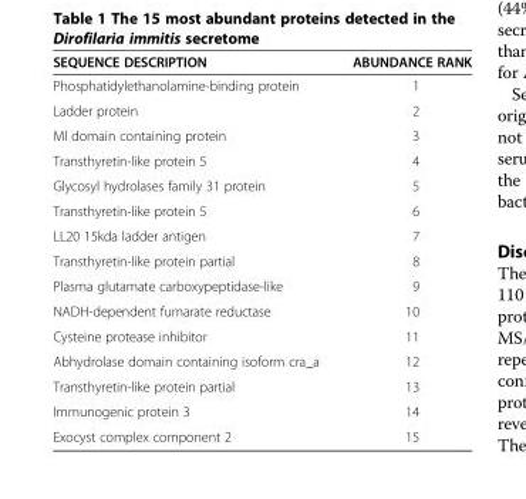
<table><thead><tr><td>SEQUENCE DESCRIPTION</td><td>ABUNDANCE RANK</td></tr></thead><tbody><tr><td>Phosphatidylethanolamine-binding protein</td><td>1</td></tr><tr><td>Ladder protein</td><td>2</td></tr><tr><td>Ml domain containing protein</td><td>3</td></tr><tr><td>Transthyretin-like protein 5</td><td>4</td></tr><tr><td>Glycosyl hydrolases family 31 protein</td><td>5</td></tr><tr><td>Transthyretin-like protein 5</td><td>6</td></tr><tr><td>LL20 15kda ladder antigen</td><td>7</td></tr><tr><td>Transthyretin-like protein partial</td><td>8</td></tr><tr><td>Plasma glutamate carboxypeptidase-like</td><td>9</td></tr><tr><td>NADH-dependent fumarate reductase</td><td>10</td></tr><tr><td>Cysteine protease inhibitor</td><td>11</td></tr><tr><td>Abhydrolase domain containing isoform cra_a</td><td>12</td></tr><tr><td>Transthyretin-like protein partial</td><td>13</td></tr><tr><td>Immunogenic protein 3</td><td>14</td></tr><tr><td>Exocyst complex component 2</td><td>15</td></tr></tbody></table>